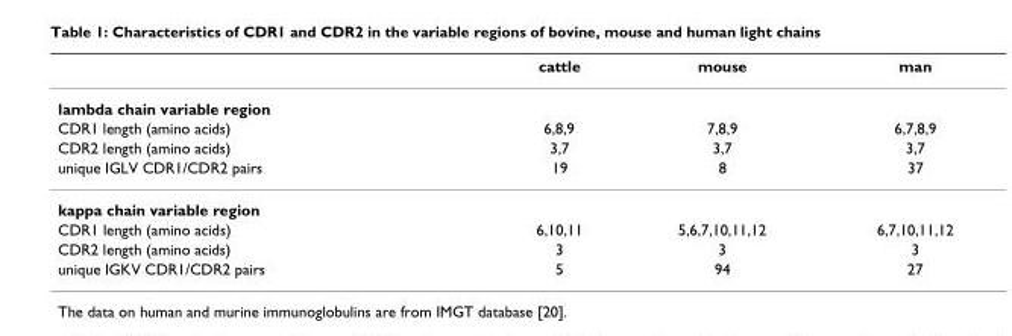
<table><thead><tr><td></td><td>cattle</td><td>mouse</td><td>man</td></tr></thead><tbody><tr><td colspan="4">lambda chain variable region</td></tr><tr><td>CDR1 length (amino acids)</td><td>6,8,9</td><td>7,8,9</td><td>6,7,8,9</td></tr><tr><td>CDR2 length (amino acids)</td><td>3,7</td><td>3,7</td><td>3,7</td></tr><tr><td>unique IGLV CDR1/CDR2 pairs</td><td>19</td><td>8</td><td>37</td></tr><tr><td colspan="4">kappa chain variable region</td></tr><tr><td>CDR1 length (amino acids)</td><td>6,10,11</td><td>5,6,7,10,11,12</td><td>6,7,10,11,12</td></tr><tr><td>CDR2 length (amino acids)</td><td>3</td><td>3</td><td>3</td></tr><tr><td>unique IGKV CDR1/CDR2 pairs</td><td>5</td><td>94</td><td>27</td></tr></tbody></table>